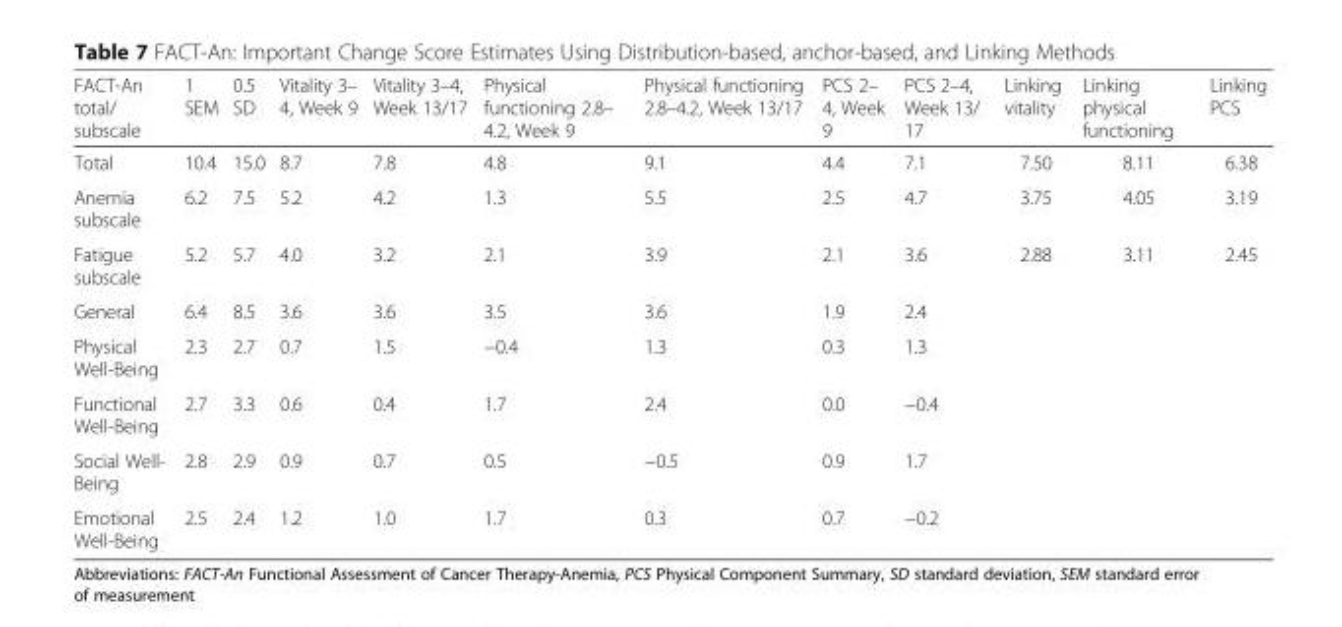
<table><thead><tr><td>FACT-An total/ subscale</td><td>1 SEM</td><td>0.5 SD</td><td>Vitality 3– 4, Week 9</td><td>Vitality 3–4, Week 13/17</td><td>Physical functioning 2.8– 4.2, Week 9</td><td>Physical functioning 2.8–4.2, Week 13/17</td><td>PCS 2– 4, Week 9</td><td>PCS 2–4, Week 13/ 17</td><td>Linking vitality</td><td>Linking physical functioning</td><td>Linking PCS</td></tr></thead><tbody><tr><td>Total</td><td>10.4</td><td>15.0</td><td>8.7</td><td>7.8</td><td>4.8</td><td>9.1</td><td>4.4</td><td>7.1</td><td>7.50</td><td>8.11</td><td>6.38</td></tr><tr><td>Anemia subscale</td><td>6.2</td><td>7.5</td><td>5.2</td><td>4.2</td><td>1.3</td><td>5.5</td><td>2.5</td><td>4.7</td><td>3.75</td><td>4.05</td><td>3.19</td></tr><tr><td>Fatigue subscale</td><td>5.2</td><td>5.7</td><td>4.0</td><td>3.2</td><td>2.1</td><td>3.9</td><td>2.1</td><td>3.6</td><td>2.88</td><td>3.11</td><td>2.45</td></tr><tr><td>General</td><td>6.4</td><td>8.5</td><td>3.6</td><td>3.6</td><td>3.5</td><td>3.6</td><td>1.9</td><td>2.4</td><td></td><td></td><td></td></tr><tr><td>Physical Well-Being</td><td>2.3</td><td>2.7</td><td>0.7</td><td>1.5</td><td>−0.4</td><td>1.3</td><td>0.3</td><td>1.3</td><td></td><td></td><td></td></tr><tr><td>Functional Well-Being</td><td>2.7</td><td>3.3</td><td>0.6</td><td>0.4</td><td>1.7</td><td>2.4</td><td>0.0</td><td>−0.4</td><td></td><td></td><td></td></tr><tr><td>Social Well- Being</td><td>2.8</td><td>2.9</td><td>0.9</td><td>0.7</td><td>0.5</td><td>−0.5</td><td>0.9</td><td>1.7</td><td></td><td></td><td></td></tr><tr><td>Emotional Well-Being</td><td>2.5</td><td>2.4</td><td>1.2</td><td>1.0</td><td>1.7</td><td>0.3</td><td>0.7</td><td>−0.2</td><td></td><td></td><td></td></tr></tbody></table>